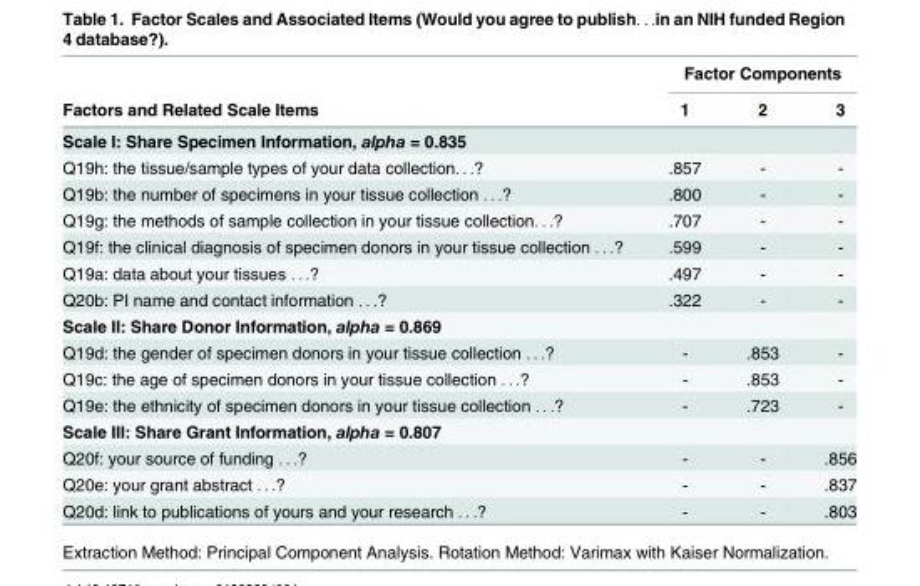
<table><thead><tr><td rowspan="2">Factors and Related Scale Items</td><td colspan="3">Factor Components</td></tr><tr><td>1</td><td>2</td><td>3</td></tr></thead><tbody><tr><td colspan="4">Scale I: Share Specimen Information, alpha = 0.835</td></tr><tr><td>Q19h: the tissue/sample types of your data collection. . .?</td><td>.857</td><td>-</td><td>-</td></tr><tr><td>Q19b: the number of specimens in your tissue collection . . .?</td><td>.800</td><td>-</td><td>-</td></tr><tr><td>Q19g: the methods of sample collection in your tissue collection. . .?</td><td>.707</td><td>-</td><td>-</td></tr><tr><td>Q19f: the clinical diagnosis of specimen donors in your tissue collection . . .?</td><td>.599</td><td>-</td><td>-</td></tr><tr><td>Q19a: data about your tissues . . .?</td><td>.497</td><td>-</td><td>-</td></tr><tr><td>Q20b: PI name and contact information . . .?</td><td>.322</td><td>-</td><td>-</td></tr><tr><td colspan="4">Scale II: Share Donor Information, alpha = 0.869</td></tr><tr><td>Q19d: the gender of specimen donors in your tissue collection . . .?</td><td>-</td><td>.853</td><td>-</td></tr><tr><td>Q19c: the age of specimen donors in your tissue collection . . .?</td><td>-</td><td>.853</td><td>-</td></tr><tr><td>Q19e: the ethnicity of specimen donors in your tissue collection . . .?</td><td>-</td><td>.723</td><td>-</td></tr><tr><td colspan="4">Scale III: Share Grant Information, alpha = 0.807</td></tr><tr><td>Q20f: your source of funding . . .?</td><td>-</td><td>-</td><td>.856</td></tr><tr><td>Q20e: your grant abstract . . .?</td><td>-</td><td>-</td><td>.837</td></tr><tr><td>Q20d: link to publications of yours and your research . . .?</td><td>-</td><td>-</td><td>.803</td></tr></tbody></table>